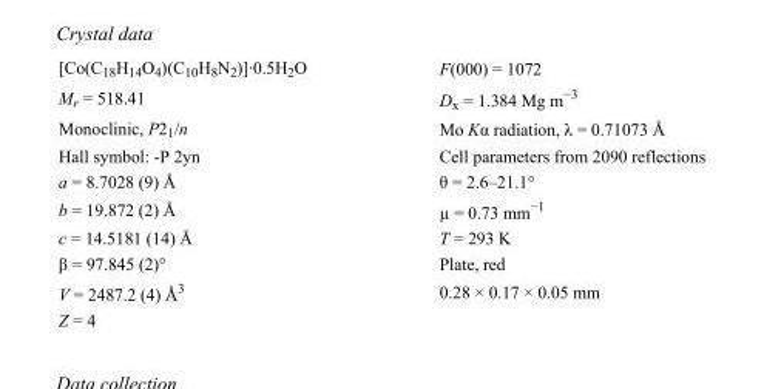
<table><tbody><tr><td>[Co(C<sub>18</sub>H<sub>14</sub>O<sub>4</sub>)(C<sub>10</sub>H<sub>8</sub>N<sub>2</sub>)]·0.5H<sub>2</sub>O</td><td>F(000) = 1072</td></tr><tr><td>M<sub>r</sub> = 518.41</td><td>D<sub>x</sub> = 1.384 Mg m<sup>−3</sup></td></tr><tr><td>Monoclinic, P2<sub>1</sub>/n</td><td>Mo Kα radiation, λ = 0.71073 Å</td></tr><tr><td>Hall symbol: -P 2yn</td><td>Cell parameters from 2090 reflections</td></tr><tr><td>a = 8.7028 (9) Å</td><td>θ = 2.6–21.1°</td></tr><tr><td>b = 19.872 (2) Å</td><td>µ = 0.73 mm<sup>−1</sup></td></tr><tr><td>c = 14.5181 (14) Å</td><td>T = 293 K</td></tr><tr><td>β = 97.845 (2)°</td><td>Plate, red</td></tr><tr><td>V = 2487.2 (4) Å<sup>3</sup></td><td>0.28 × 0.17 × 0.05 mm</td></tr><tr><td>Z = 4</td><td></td></tr></tbody></table>